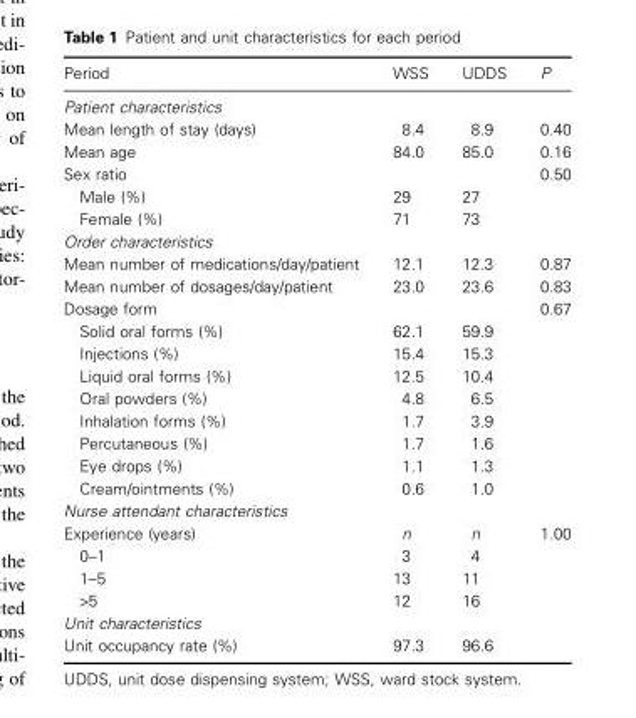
<table><thead><tr><td>Period</td><td>WSS</td><td>UDDS</td><td>P</td></tr></thead><tbody><tr><td colspan="4">Patient characteristics</td></tr><tr><td>Mean length of stay (days)</td><td>8.4</td><td>8.9</td><td>0.40</td></tr><tr><td>Mean age</td><td>84.0</td><td>85.0</td><td>0.16</td></tr><tr><td>Sex ratio</td><td></td><td></td><td>0.50</td></tr><tr><td>Male (%)</td><td>29</td><td>27</td><td></td></tr><tr><td>Female (%)</td><td>71</td><td>73</td><td></td></tr><tr><td colspan="4">Order characteristics</td></tr><tr><td>Mean number of medications/day/patient</td><td>12.1</td><td>12.3</td><td>0.87</td></tr><tr><td>Mean number of dosages/day/patient</td><td>23.0</td><td>23.6</td><td>0.83</td></tr><tr><td>Dosage form</td><td></td><td></td><td>0.67</td></tr><tr><td>Solid oral forms (%)</td><td>62.1</td><td>59.9</td><td></td></tr><tr><td>Injections (%)</td><td>15.4</td><td>15.3</td><td></td></tr><tr><td>Liquid oral forms (%)</td><td>12.5</td><td>10.4</td><td></td></tr><tr><td>Oral powders (%)</td><td>4.8</td><td>6.5</td><td></td></tr><tr><td>Inhalation forms (%)</td><td>1.7</td><td>3.9</td><td></td></tr><tr><td>Percutaneous (%)</td><td>1.7</td><td>1.6</td><td></td></tr><tr><td>Eye drops (%)</td><td>1.1</td><td>1.3</td><td></td></tr><tr><td>Cream/ointments (%)</td><td>0.6</td><td>1.0</td><td></td></tr><tr><td colspan="4">Nurse attendant characteristics</td></tr><tr><td>Experience (years)</td><td>n</td><td>n</td><td>1.00</td></tr><tr><td>0–1</td><td>3</td><td>4</td><td></td></tr><tr><td>1–5</td><td>13</td><td>11</td><td></td></tr><tr><td>&gt;5</td><td>12</td><td>16</td><td></td></tr><tr><td colspan="4">Unit characteristics</td></tr><tr><td>Unit occupancy rate (%)</td><td>97.3</td><td>96.6</td><td></td></tr></tbody></table>